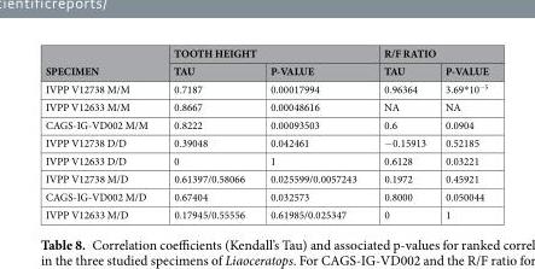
<table><thead><tr><td rowspan="2">SPECIMEN</td><td colspan="2">TOOTH HEIGHT</td><td colspan="2">R/F RATIO</td></tr><tr><td>TAU</td><td>P-VALUE</td><td>TAU</td><td>P-VALUE</td></tr></thead><tbody><tr><td>IVPP V12738 M/M</td><td>0.7187</td><td>0.00017994</td><td>0.96364</td><td>3.69*10<sup>−5</sup></td></tr><tr><td>IVPP V12633 M/M</td><td>0.8667</td><td>0.00048616</td><td>NA</td><td>NA</td></tr><tr><td>CAGS-IG-VD002 M/M</td><td>0.8222</td><td>0.00093503</td><td>0.6</td><td>0.0904</td></tr><tr><td>IVPP V12738 D/D</td><td>0.39048</td><td>0.042461</td><td>−0.15913</td><td>0.52185</td></tr><tr><td>IVPP V12633 D/D</td><td>0</td><td>1</td><td>0.6128</td><td>0.03221</td></tr><tr><td>IVPP V12738 M/D</td><td>0.61397/0.58066</td><td>0.025599/0.0057243</td><td>0.1972</td><td>0.45921</td></tr><tr><td>CAGS-IG-VD002 M/D</td><td>0.67404</td><td>0.032573</td><td>0.8000</td><td>0.050044</td></tr><tr><td>IVPP V12633 M/D</td><td>0.17945/0.55556</td><td>0.61985/0.025347</td><td>0</td><td>1</td></tr></tbody></table>